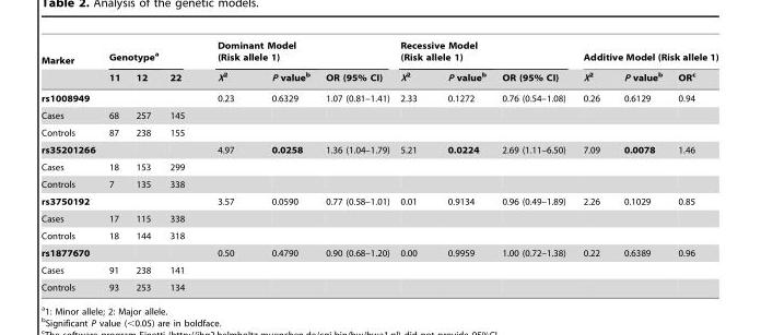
<table><thead><tr><td rowspan="2">Marker</td><td colspan="2">Genotype<sup>a</sup></td><td rowspan="2">22</td><td colspan="2">Dominant Model (Risk allele 1)</td><td rowspan="2">OR (95% CI)</td><td colspan="2">Recessive Model (Risk allele 1)</td><td rowspan="2">OR (95% CI)</td><td colspan="3">Additive Model (Risk allele 1)</td></tr><tr><td>11</td><td>12</td><td>X<sup>2</sup></td><td>P value<sup>b</sup></td><td>X<sup>2</sup></td><td>P value<sup>b</sup></td><td>X<sup>2</sup></td><td>P value<sup>b</sup></td><td>OR<sup>c</sup></td></tr></thead><tbody><tr><td>rs1008949</td><td></td><td></td><td></td><td>0.23</td><td>0.6329</td><td>1.07 (0.81–1.41)</td><td>2.33</td><td>0.1272</td><td>0.76 (0.54–1.08)</td><td>0.26</td><td>0.6129</td><td>0.94</td></tr><tr><td>Cases</td><td>68</td><td>257</td><td>145</td><td></td><td></td><td></td><td></td><td></td><td></td><td></td><td></td><td></td></tr><tr><td>Controls</td><td>87</td><td>238</td><td>155</td><td></td><td></td><td></td><td></td><td></td><td></td><td></td><td></td><td></td></tr><tr><td>rs35201266</td><td></td><td></td><td></td><td>4.97</td><td>0.0258</td><td>1.36 (1.04–1.79)</td><td>5.21</td><td>0.0224</td><td>2.69 (1.11–6.50)</td><td>7.09</td><td>0.0078</td><td>1.46</td></tr><tr><td>Cases</td><td>18</td><td>153</td><td>299</td><td></td><td></td><td></td><td></td><td></td><td></td><td></td><td></td><td></td></tr><tr><td>Controls</td><td>7</td><td>135</td><td>338</td><td></td><td></td><td></td><td></td><td></td><td></td><td></td><td></td><td></td></tr><tr><td>rs3750192</td><td></td><td></td><td></td><td>3.57</td><td>0.0590</td><td>0.77 (0.58–1.01)</td><td>0.01</td><td>0.9134</td><td>0.96 (0.49–1.89)</td><td>2.26</td><td>0.1029</td><td>0.85</td></tr><tr><td>Cases</td><td>17</td><td>115</td><td>338</td><td></td><td></td><td></td><td></td><td></td><td></td><td></td><td></td><td></td></tr><tr><td>Controls</td><td>18</td><td>144</td><td>318</td><td></td><td></td><td></td><td></td><td></td><td></td><td></td><td></td><td></td></tr><tr><td>rs1877670</td><td></td><td></td><td></td><td>0.50</td><td>0.4790</td><td>0.90 (0.68–1.20)</td><td>0.00</td><td>0.9959</td><td>1.00 (0.72–1.38)</td><td>0.22</td><td>0.6389</td><td>0.96</td></tr><tr><td>Cases</td><td>91</td><td>238</td><td>141</td><td></td><td></td><td></td><td></td><td></td><td></td><td></td><td></td><td></td></tr><tr><td>Controls</td><td>93</td><td>253</td><td>134</td><td></td><td></td><td></td><td></td><td></td><td></td><td></td><td></td><td></td></tr></tbody></table>